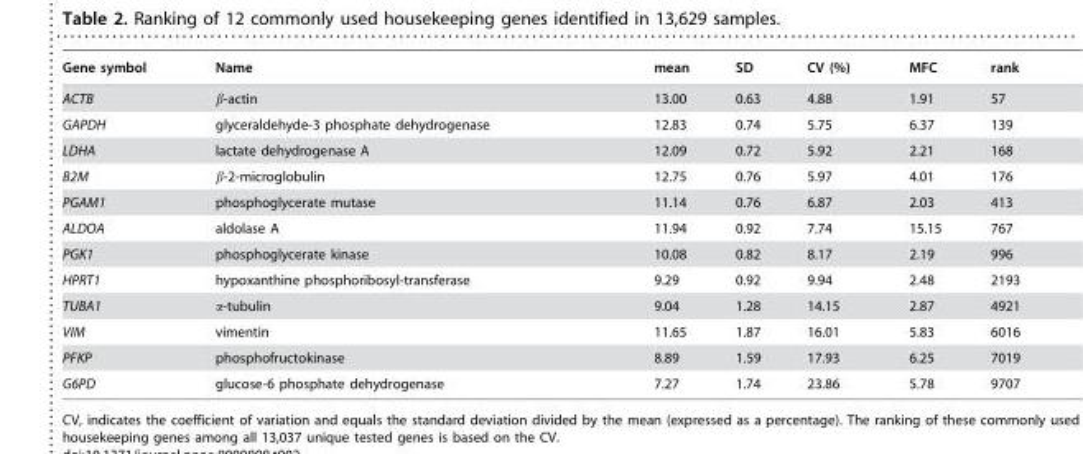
<table><thead><tr><td>Gene symbol</td><td>Name</td><td>mean</td><td>SD</td><td>CV (%)</td><td>MFC</td><td>rank</td></tr></thead><tbody><tr><td>ACTB</td><td>β-actin</td><td>13.00</td><td>0.63</td><td>4.88</td><td>1.91</td><td>57</td></tr><tr><td>GAPDH</td><td>glyceraldehyde-3 phosphate dehydrogenase</td><td>12.83</td><td>0.74</td><td>5.75</td><td>6.37</td><td>139</td></tr><tr><td>LDHA</td><td>lactate dehydrogenase A</td><td>12.09</td><td>0.72</td><td>5.92</td><td>2.21</td><td>168</td></tr><tr><td>B2M</td><td>β-2-microglobulin</td><td>12.75</td><td>0.76</td><td>5.97</td><td>4.01</td><td>176</td></tr><tr><td>PGAM1</td><td>phosphoglycerate mutase</td><td>11.14</td><td>0.76</td><td>6.87</td><td>2.03</td><td>413</td></tr><tr><td>ALDOA</td><td>aldolase A</td><td>11.94</td><td>0.92</td><td>7.74</td><td>15.15</td><td>767</td></tr><tr><td>PGK1</td><td>phosphoglycerate kinase</td><td>10.08</td><td>0.82</td><td>8.17</td><td>2.19</td><td>996</td></tr><tr><td>HPRT1</td><td>hypoxanthine phosphoribosyl-transferase</td><td>9.29</td><td>0.92</td><td>9.94</td><td>2.48</td><td>2193</td></tr><tr><td>TUBA1</td><td>α-tubulin</td><td>9.04</td><td>1.28</td><td>14.15</td><td>2.87</td><td>4921</td></tr><tr><td>VIM</td><td>vimentin</td><td>11.65</td><td>1.87</td><td>16.01</td><td>5.83</td><td>6016</td></tr><tr><td>PFKP</td><td>phosphofructokinase</td><td>8.89</td><td>1.59</td><td>17.93</td><td>6.25</td><td>7019</td></tr><tr><td>G6PD</td><td>glucose-6 phosphate dehydrogenase</td><td>7.27</td><td>1.74</td><td>23.86</td><td>5.78</td><td>9707</td></tr></tbody></table>